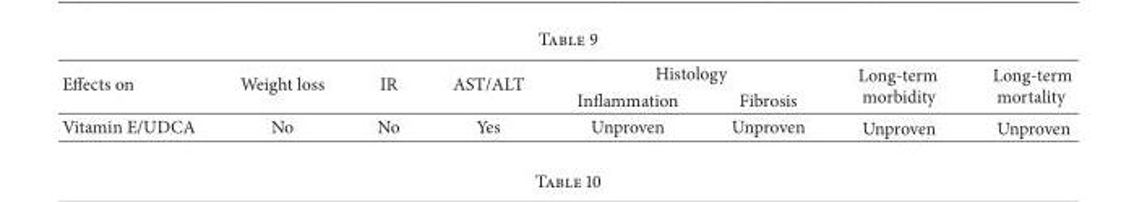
<table><thead><tr><td rowspan="2">Effects on</td><td rowspan="2">Weight loss</td><td rowspan="2">IR</td><td rowspan="2">AST/ALT</td><td colspan="2">Histology</td><td rowspan="2">Long-term morbidity</td><td rowspan="2">Long-term mortality</td></tr><tr><td>Inflammation</td><td>Fibrosis</td></tr></thead><tbody><tr><td>Vitamin E/UDCA</td><td>No</td><td>No</td><td>Yes</td><td>Unproven</td><td>Unproven</td><td>Unproven</td><td>Unproven</td></tr></tbody></table>